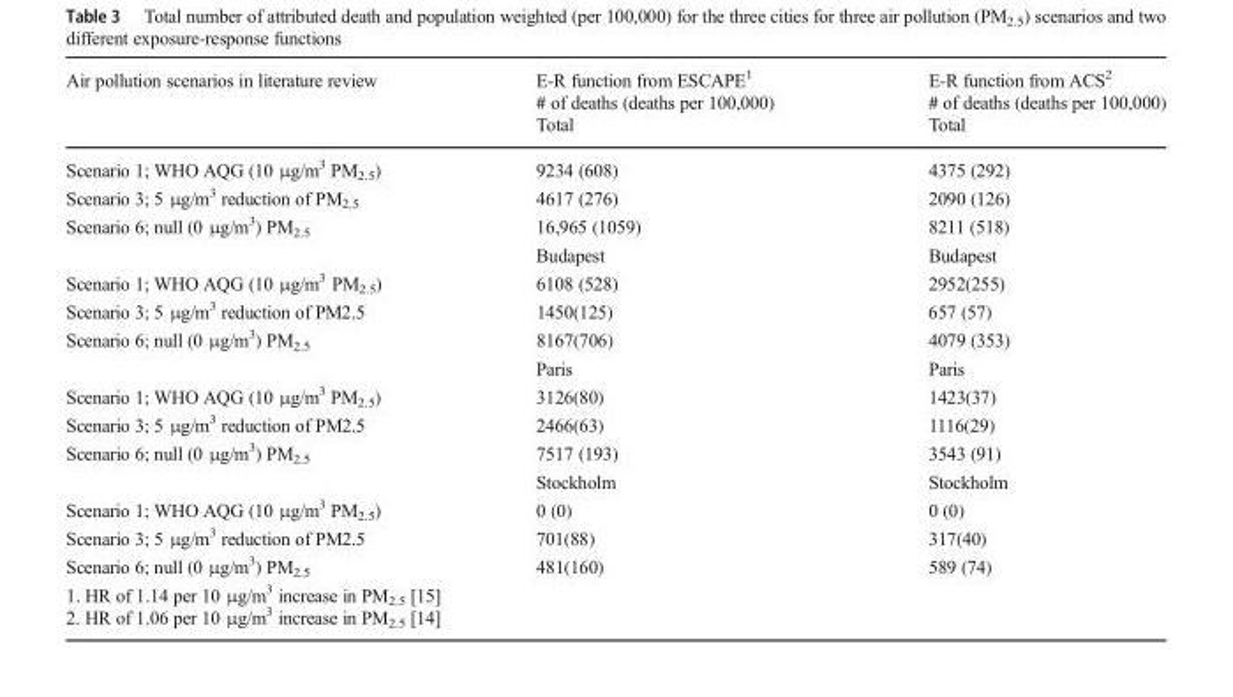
<table><thead><tr><td rowspan="2">Air pollution scenarios in literature review</td><td rowspan="2">E-R function from ESCAPE<sup>1</sup> # of deaths (deaths per 100,000) Total</td><td rowspan="2">E-R function from ACS<sup>2</sup> # of deaths (deaths per 100,000) Total</td></tr><tr></tr></thead><tbody><tr><td>Scenario 1; WHO AQG (10 μg/m<sup>3</sup> PM<sub>2.5</sub>)</td><td>9234 (608)</td><td>4375 (292)</td></tr><tr><td>Scenario 3; 5 μg/m<sup>3</sup> reduction of PM<sub>2.5</sub></td><td>4617 (276)</td><td>2090 (126)</td></tr><tr><td rowspan="2">Scenario 6; null (0 μg/m<sup>3</sup>) PM<sub>2.5</sub></td><td>16,965 (1059)</td><td>8211 (518)</td></tr><tr><td>Budapest</td><td>Budapest</td></tr><tr><td>Scenario 1; WHO AQG (10 μg/m<sup>3</sup> PM<sub>2.5</sub>)</td><td>6108 (528)</td><td>2952(255)</td></tr><tr><td>Scenario 3; 5 μg/m<sup>3</sup> reduction of PM2.5</td><td>1450(125)</td><td>657 (57)</td></tr><tr><td rowspan="2">Scenario 6; null (0 μg/m<sup>3</sup>) PM<sub>2.5</sub></td><td>8167(706)</td><td>4079 (353)</td></tr><tr><td>Paris</td><td>Paris</td></tr><tr><td>Scenario 1; WHO AQG (10 μg/m<sup>3</sup> PM<sub>2.5</sub>)</td><td>3126(80)</td><td>1423(37)</td></tr><tr><td>Scenario 3; 5 μg/m<sup>3</sup> reduction of PM2.5</td><td>2466(63)</td><td>1116(29)</td></tr><tr><td rowspan="2">Scenario 6; null (0 μg/m<sup>3</sup>) PM<sub>2.5</sub></td><td>7517 (193)</td><td>3543 (91)</td></tr><tr><td>Stockholm</td><td>Stockholm</td></tr><tr><td>Scenario 1; WHO AQG (10 μg/m<sup>3</sup> PM<sub>2.5</sub>)</td><td>0 (0)</td><td>0 (0)</td></tr><tr><td>Scenario 3; 5 μg/m<sup>3</sup> reduction of PM2.5</td><td>701(88)</td><td>317(40)</td></tr><tr><td>Scenario 6; null (0 μg/m<sup>3</sup>) PM<sub>2.5</sub></td><td>481(160)</td><td>589 (74)</td></tr><tr><td colspan="3">1. HR of 1.14 per 10 μg/m<sup>3</sup> increase in PM<sub>2.5</sub> [15] 2. HR of 1.06 per 10 μg/m<sup>3</sup> increase in PM<sub>2.5</sub> [14]</td></tr></tbody></table>